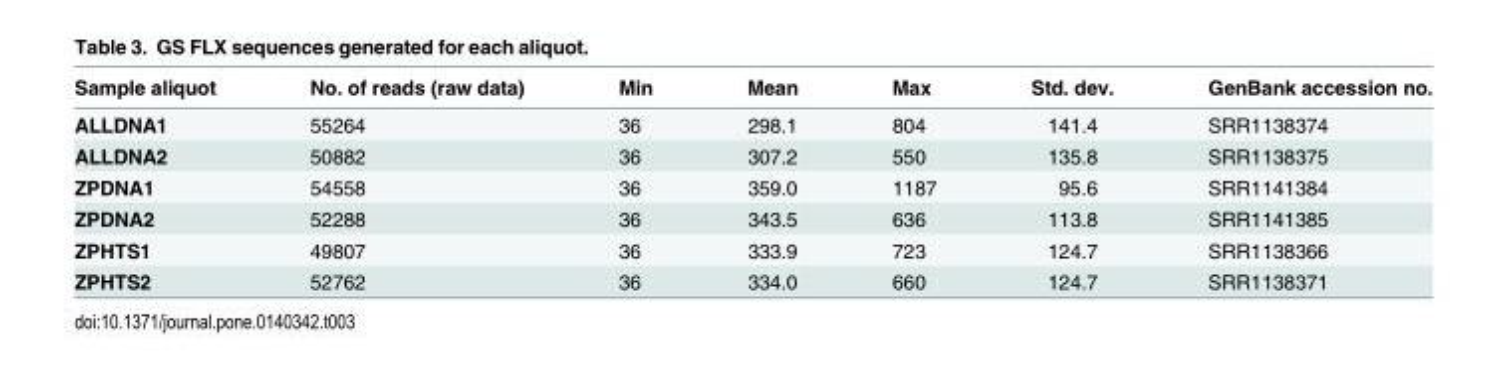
<table><thead><tr><td>Sample aliquot</td><td>No. of reads (raw data)</td><td>Min</td><td>Mean</td><td>Max</td><td>Std. dev.</td><td>GenBank accession no.</td></tr></thead><tbody><tr><td>ALLDNA1</td><td>55264</td><td>36</td><td>298.1</td><td>804</td><td>141.4</td><td>SRR1138374</td></tr><tr><td>ALLDNA2</td><td>50882</td><td>36</td><td>307.2</td><td>550</td><td>135.8</td><td>SRR1138375</td></tr><tr><td>ZPDNA1</td><td>54558</td><td>36</td><td>359.0</td><td>1187</td><td>95.6</td><td>SRR1141384</td></tr><tr><td>ZPDNA2</td><td>52288</td><td>36</td><td>343.5</td><td>636</td><td>113.8</td><td>SRR1141385</td></tr><tr><td>ZPHTS1</td><td>49807</td><td>36</td><td>333.9</td><td>723</td><td>124.7</td><td>SRR1138366</td></tr><tr><td>ZPHTS2</td><td>52762</td><td>36</td><td>334.0</td><td>660</td><td>124.7</td><td>SRR1138371</td></tr></tbody></table>